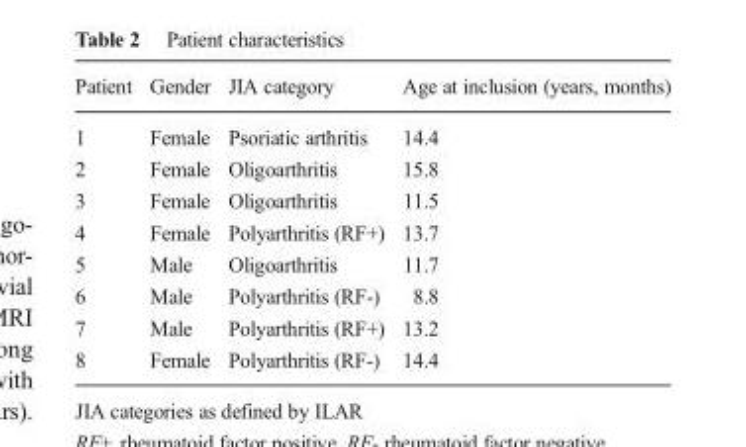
<table><thead><tr><td>Patient</td><td>Gender</td><td>JIA category</td><td>Age at inclusion (years, months)</td></tr></thead><tbody><tr><td>1</td><td>Female</td><td>Psoriatic arthritis</td><td>14.4</td></tr><tr><td>2</td><td>Female</td><td>Oligoarthritis</td><td>15.8</td></tr><tr><td>3</td><td>Female</td><td>Oligoarthritis</td><td>11.5</td></tr><tr><td>4</td><td>Female</td><td>Polyarthritis (RF+)</td><td>13.7</td></tr><tr><td>5</td><td>Male</td><td>Oligoarthritis</td><td>11.7</td></tr><tr><td>6</td><td>Male</td><td>Polyarthritis (RF-)</td><td>8.8</td></tr><tr><td>7</td><td>Male</td><td>Polyarthritis (RF+)</td><td>13.2</td></tr><tr><td>8</td><td>Female</td><td>Polyarthritis (RF-)</td><td>14.4</td></tr></tbody></table>